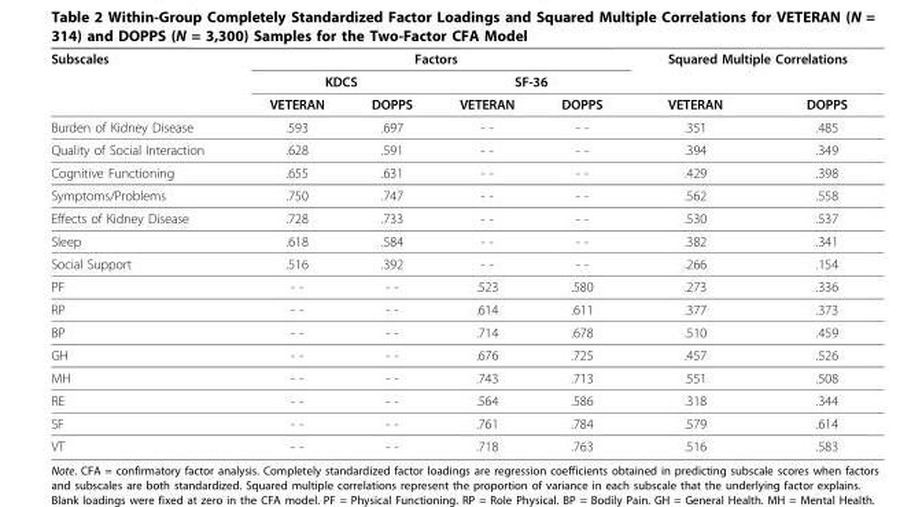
<table><thead><tr><td rowspan="3">Subscales</td><td colspan="4">Factors</td><td colspan="2">Squared Multiple Correlations</td></tr><tr><td colspan="2">KDCS</td><td colspan="2">SF-36</td><td rowspan="2">VETERAN</td><td rowspan="2">DOPPS</td></tr><tr><td>VETERAN</td><td>DOPPS</td><td>VETERAN</td><td>DOPPS</td></tr></thead><tbody><tr><td>Burden of Kidney Disease</td><td>.593</td><td>.697</td><td>- -</td><td>- -</td><td>.351</td><td>.485</td></tr><tr><td>Quality of Social Interaction</td><td>.628</td><td>.591</td><td>- -</td><td>- -</td><td>.394</td><td>.349</td></tr><tr><td>Cognitive Functioning</td><td>.655</td><td>.631</td><td>- -</td><td>- -</td><td>.429</td><td>.398</td></tr><tr><td>Symptoms/Problems</td><td>.750</td><td>.747</td><td>- -</td><td>- -</td><td>.562</td><td>.558</td></tr><tr><td>Effects of Kidney Disease</td><td>.728</td><td>.733</td><td>- -</td><td>- -</td><td>.530</td><td>.537</td></tr><tr><td>Sleep</td><td>.618</td><td>.584</td><td>- -</td><td>- -</td><td>.382</td><td>.341</td></tr><tr><td>Social Support</td><td>.516</td><td>.392</td><td>- -</td><td>- -</td><td>.266</td><td>.154</td></tr><tr><td>PF</td><td>- -</td><td>- -</td><td>.523</td><td>.580</td><td>.273</td><td>.336</td></tr><tr><td>RP</td><td>- -</td><td>- -</td><td>.614</td><td>.611</td><td>.377</td><td>.373</td></tr><tr><td>BP</td><td>- -</td><td>- -</td><td>.714</td><td>.678</td><td>.510</td><td>.459</td></tr><tr><td>GH</td><td>- -</td><td>- -</td><td>.676</td><td>.725</td><td>.457</td><td>.526</td></tr><tr><td>MH</td><td>- -</td><td>- -</td><td>.743</td><td>.713</td><td>.551</td><td>.508</td></tr><tr><td>RE</td><td>- -</td><td>- -</td><td>.564</td><td>.586</td><td>.318</td><td>.344</td></tr><tr><td>SF</td><td>- -</td><td>- -</td><td>.761</td><td>.784</td><td>.579</td><td>.614</td></tr><tr><td>VT</td><td>- -</td><td>- -</td><td>.718</td><td>.763</td><td>.516</td><td>.583</td></tr></tbody></table>